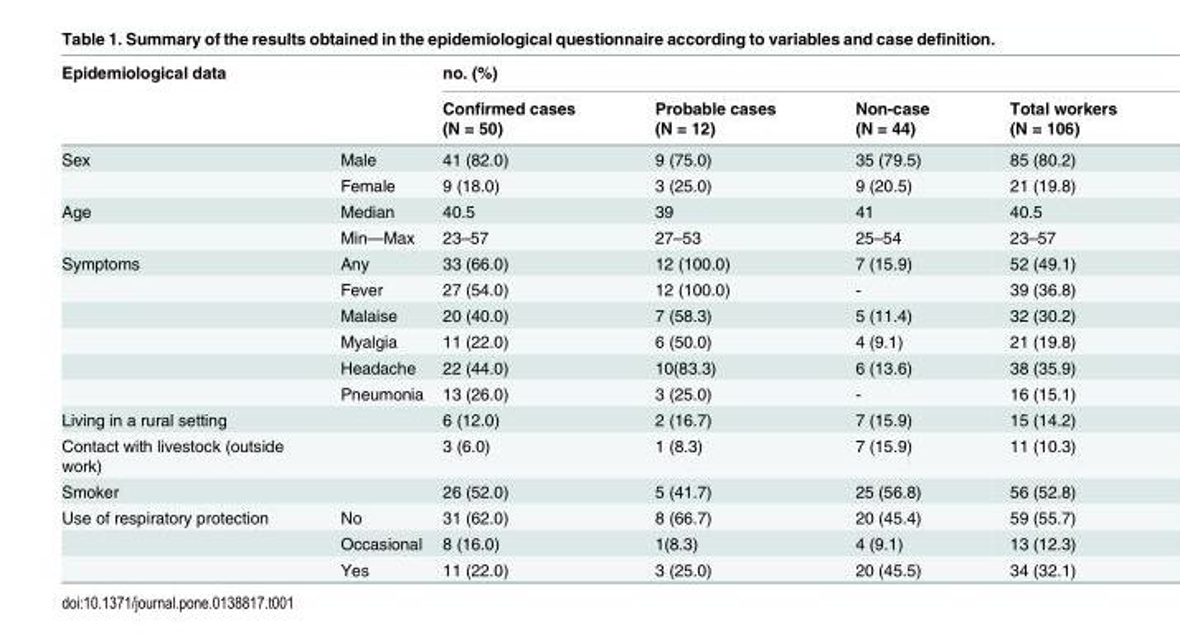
<table><thead><tr><td rowspan="2" colspan="2">Epidemiological data</td><td colspan="4">no. (%)</td></tr><tr><td rowspan="2">Confirmed cases (N = 50) 41 (82.0)</td><td rowspan="2">Probable cases (N = 12) 9 (75.0)</td><td rowspan="2">Non-case (N = 44) 35 (79.5)</td><td rowspan="2">Total workers (N = 106) 85 (80.2)</td></tr><tr><td>Sex</td><td>Male</td></tr></thead><tbody><tr><td></td><td>Female</td><td>9 (18.0)</td><td>3 (25.0)</td><td>9 (20.5)</td><td>21 (19.8)</td></tr><tr><td rowspan="2">Age</td><td>Median</td><td>40.5</td><td>39</td><td>41</td><td>40.5</td></tr><tr><td>Min—Max</td><td>23–57</td><td>27–53</td><td>25–54</td><td>23–57</td></tr><tr><td rowspan="6">Symptoms</td><td>Any</td><td>33 (66.0)</td><td>12 (100.0)</td><td>7 (15.9)</td><td>52 (49.1)</td></tr><tr><td>Fever</td><td>27 (54.0)</td><td>12 (100.0)</td><td>-</td><td>39 (36.8)</td></tr><tr><td>Malaise</td><td>20 (40.0)</td><td>7 (58.3)</td><td>5 (11.4)</td><td>32 (30.2)</td></tr><tr><td>Myalgia</td><td>11 (22.0)</td><td>6 (50.0)</td><td>4 (9.1)</td><td>21 (19.8)</td></tr><tr><td>Headache</td><td>22 (44.0)</td><td>10(83.3)</td><td>6 (13.6)</td><td>38 (35.9)</td></tr><tr><td>Pneumonia</td><td>13 (26.0)</td><td>3 (25.0)</td><td>-</td><td>16 (15.1)</td></tr><tr><td>Living in a rural setting</td><td></td><td>6 (12.0)</td><td>2 (16.7)</td><td>7 (15.9)</td><td>15 (14.2)</td></tr><tr><td>Contact with livestock (outside work)</td><td></td><td>3 (6.0)</td><td>1 (8.3)</td><td>7 (15.9)</td><td>11 (10.3)</td></tr><tr><td>Smoker</td><td></td><td>26 (52.0)</td><td>5 (41.7)</td><td>25 (56.8)</td><td>56 (52.8)</td></tr><tr><td rowspan="3">Use of respiratory protection</td><td>No</td><td>31 (62.0)</td><td>8 (66.7)</td><td>20 (45.4)</td><td>59 (55.7)</td></tr><tr><td>Occasional</td><td>8 (16.0)</td><td>1(8.3)</td><td>4 (9.1)</td><td>13 (12.3)</td></tr><tr><td>Yes</td><td>11 (22.0)</td><td>3 (25.0)</td><td>20 (45.5)</td><td>34 (32.1)</td></tr></tbody></table>